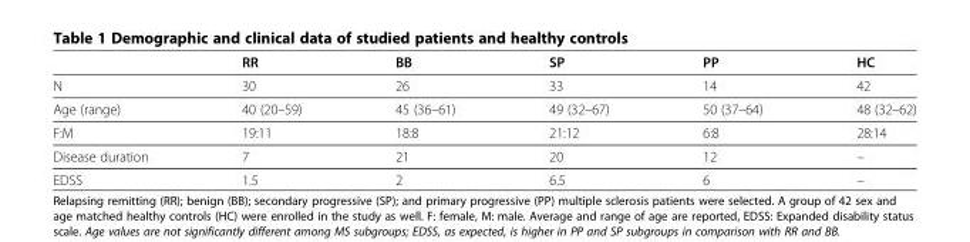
<table><thead><tr><td></td><td>RR</td><td>BB</td><td>SP</td><td>PP</td><td>HC</td></tr></thead><tbody><tr><td>N</td><td>30</td><td>26</td><td>33</td><td>14</td><td>42</td></tr><tr><td>Age (range)</td><td>40 (20–59)</td><td>45 (36–61)</td><td>49 (32–67)</td><td>50 (37–64)</td><td>48 (32–62)</td></tr><tr><td>F:M</td><td>19:11</td><td>18:8</td><td>21:12</td><td>6:8</td><td>28:14</td></tr><tr><td>Disease duration</td><td>7</td><td>21</td><td>20</td><td>12</td><td>–</td></tr><tr><td>EDSS</td><td>1.5</td><td>2</td><td>6.5</td><td>6</td><td>–</td></tr></tbody></table>